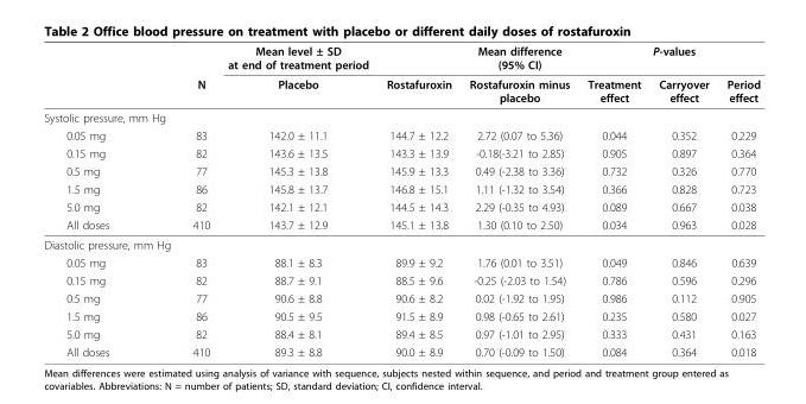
<table><thead><tr><td rowspan="2"></td><td rowspan="2">N</td><td rowspan="2">Mean level ± SD at end of treatment period Placebo</td><td rowspan="2">Rostafuroxin</td><td rowspan="2">Mean difference (95% CI) Rostafuroxin minus placebo</td><td colspan="3">P-values</td></tr><tr><td>Treatment effect</td><td>Carryover effect</td><td>Period effect</td></tr></thead><tbody><tr><td colspan="8">Systolic pressure, mm Hg</td></tr><tr><td>0.05 mg</td><td>83</td><td>142.0 ± 11.1</td><td>144.7 ± 12.2</td><td>2.72 (0.07 to 5.36)</td><td>0.044</td><td>0.352</td><td>0.229</td></tr><tr><td>0.15 mg</td><td>82</td><td>143.6 ± 13.5</td><td>143.3 ± 13.9</td><td>-0.18(-3.21 to 2.85)</td><td>0.905</td><td>0.897</td><td>0.364</td></tr><tr><td>0.5 mg</td><td>77</td><td>145.3 ± 13.8</td><td>145.9 ± 13.3</td><td>0.49 (-2.38 to 3.36)</td><td>0.732</td><td>0.326</td><td>0.770</td></tr><tr><td>1.5 mg</td><td>86</td><td>145.8 ± 13.7</td><td>146.8 ± 15.1</td><td>1.11 (-1.32 to 3.54)</td><td>0.366</td><td>0.828</td><td>0.723</td></tr><tr><td>5.0 mg</td><td>82</td><td>142.1 ± 12.1</td><td>144.5 ± 14.3</td><td>2.29 (-0.35 to 4.93)</td><td>0.089</td><td>0.667</td><td>0.038</td></tr><tr><td>All doses</td><td>410</td><td>143.7 ± 12.9</td><td>145.1 ± 13.8</td><td>1.30 (0.10 to 2.50)</td><td>0.034</td><td>0.963</td><td>0.028</td></tr><tr><td colspan="8">Diastolic pressure, mm Hg</td></tr><tr><td>0.05 mg</td><td>83</td><td>88.1 ± 8.3</td><td>89.9 ± 9.2</td><td>1.76 (0.01 to 3.51)</td><td>0.049</td><td>0.846</td><td>0.639</td></tr><tr><td>0.15 mg</td><td>82</td><td>88.7 ± 9.1</td><td>88.5 ± 9.6</td><td>-0.25 (-2.03 to 1.54)</td><td>0.786</td><td>0.596</td><td>0.296</td></tr><tr><td>0.5 mg</td><td>77</td><td>90.6 ± 8.8</td><td>90.6 ± 8.2</td><td>0.02 (-1.92 to 1.95)</td><td>0.986</td><td>0.112</td><td>0.905</td></tr><tr><td>1.5 mg</td><td>86</td><td>90.5 ± 9.5</td><td>91.5 ± 8.9</td><td>0.98 (-0.65 to 2.61)</td><td>0.235</td><td>0.580</td><td>0.027</td></tr><tr><td>5.0 mg</td><td>82</td><td>88.4 ± 8.1</td><td>89.4 ± 8.5</td><td>0.97 (-1.01 to 2.95)</td><td>0.333</td><td>0.431</td><td>0.163</td></tr><tr><td>All doses</td><td>410</td><td>89.3 ± 8.8</td><td>90.0 ± 8.9</td><td>0.70 (-0.09 to 1.50)</td><td>0.084</td><td>0.364</td><td>0.018</td></tr></tbody></table>